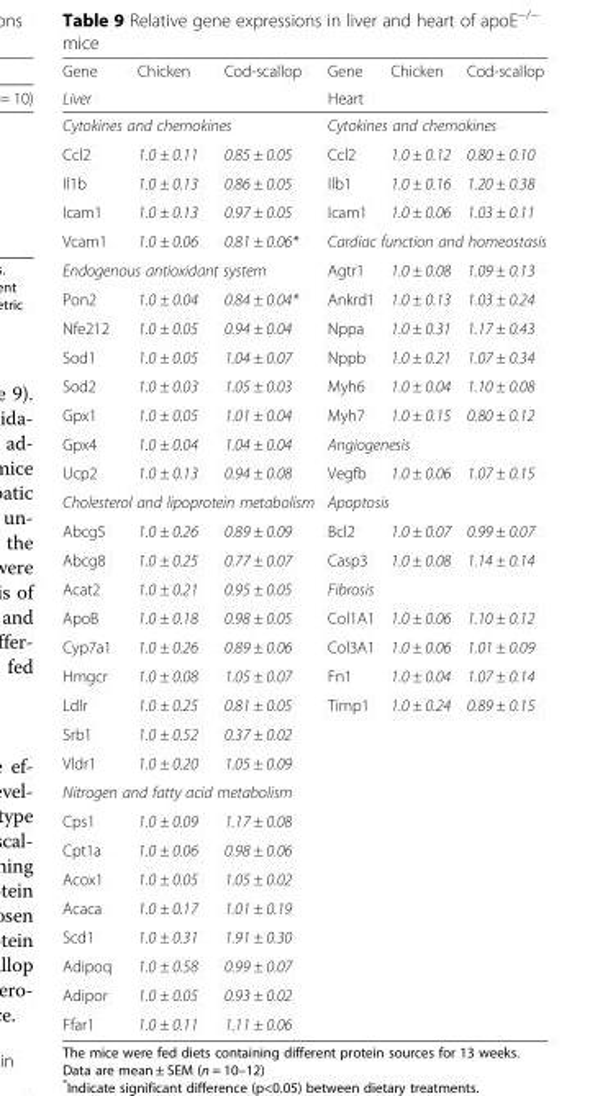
<table><thead><tr><td>Gene</td><td>Chicken</td><td>Cod-scallop</td><td>Gene</td><td>Chicken</td><td>Cod-scallop</td></tr><tr><td colspan="3">Liver</td><td colspan="3">Heart</td></tr></thead><tbody><tr><td colspan="3">Cytokines and chemokines</td><td colspan="3">Cytokines and chemokines</td></tr><tr><td>Ccl2</td><td>1.0 ± 0.11</td><td>0.85 ± 0.05</td><td>Ccl2</td><td>1.0 ± 0.12</td><td>0.80 ± 0.10</td></tr><tr><td>Il1b</td><td>1.0 ± 0.13</td><td>0.86 ± 0.05</td><td>Ilb1</td><td>1.0 ± 0.16</td><td>1.20 ± 0.38</td></tr><tr><td>Icam1</td><td>1.0 ± 0.13</td><td>0.97 ± 0.05</td><td>Icam1</td><td>1.0 ± 0.06</td><td>1.03 ± 0.11</td></tr><tr><td>Vcam1</td><td>1.0 ± 0.06</td><td>0.81 ± 0.06*</td><td colspan="3">Cardiac function and homeostasis</td></tr><tr><td colspan="3">Endogenous antioxidant system</td><td>Agtr1</td><td>1.0 ± 0.08</td><td>1.09 ± 0.13</td></tr><tr><td>Pon2</td><td>1.0 ± 0.04</td><td>0.84 ± 0.04*</td><td>Ankrd1</td><td>1.0 ± 0.13</td><td>1.03 ± 0.24</td></tr><tr><td>Nfe212</td><td>1.0 ± 0.05</td><td>0.94 ± 0.04</td><td>Nppa</td><td>1.0 ± 0.31</td><td>1.17 ± 0.43</td></tr><tr><td>Sod1</td><td>1.0 ± 0.05</td><td>1.04 ± 0.07</td><td>Nppb</td><td>1.0 ± 0.21</td><td>1.07 ± 0.34</td></tr><tr><td>Sod2</td><td>1.0 ± 0.03</td><td>1.05 ± 0.03</td><td>Myh6</td><td>1.0 ± 0.04</td><td>1.10 ± 0.08</td></tr><tr><td>Gpx1</td><td>1.0 ± 0.05</td><td>1.01 ± 0.04</td><td>Myh7</td><td>1.0 ± 0.15</td><td>0.80 ± 0.12</td></tr><tr><td>Gpx4</td><td>1.0 ± 0.04</td><td>1.04 ± 0.04</td><td colspan="3">Angiogenesis</td></tr><tr><td>Ucp2</td><td>1.0 ± 0.13</td><td>0.94 ± 0.08</td><td>Vegfb</td><td>1.0 ± 0.06</td><td>1.07 ± 0.15</td></tr><tr><td colspan="3">Cholesterol and lipoprotein metabolism</td><td colspan="3">Apoptosis</td></tr><tr><td>Abcg5</td><td>1.0 ± 0.26</td><td>0.89 ± 0.09</td><td>Bcl2</td><td>1.0 ± 0.07</td><td>0.99 ± 0.07</td></tr><tr><td>Abcg8</td><td>1.0 ± 0.25</td><td>0.77 ± 0.07</td><td>Casp3</td><td>1.0 ± 0.08</td><td>1.14 ± 0.14</td></tr><tr><td>Acat2</td><td>1.0 ± 0.21</td><td>0.95 ± 0.05</td><td colspan="3">Fibrosis</td></tr><tr><td>ApoB</td><td>1.0 ± 0.18</td><td>0.98 ± 0.05</td><td>Col1A1</td><td>1.0 ± 0.06</td><td>1.10 ± 0.12</td></tr><tr><td>Cyp7a1</td><td>1.0 ± 0.26</td><td>0.89 ± 0.06</td><td>Col3A1</td><td>1.0 ± 0.06</td><td>1.01 ± 0.09</td></tr><tr><td>Hmgcr</td><td>1.0 ± 0.08</td><td>1.05 ± 0.07</td><td>Fn1</td><td>1.0 ± 0.04</td><td>1.07 ± 0.14</td></tr><tr><td>Ldlr</td><td>1.0 ± 0.25</td><td>0.81 ± 0.05</td><td>Timp1</td><td>1.0 ± 0.24</td><td>0.89 ± 0.15</td></tr><tr><td>Srb1</td><td>1.0 ± 0.52</td><td>0.37 ± 0.02</td><td></td><td></td><td></td></tr><tr><td>Vldr1</td><td>1.0 ± 0.20</td><td>1.05 ± 0.09</td><td></td><td></td><td></td></tr><tr><td colspan="6">Nitrogen and fatty acid metabolism</td></tr><tr><td>Cps1</td><td>1.0 ± 0.09</td><td>1.17 ± 0.08</td><td></td><td></td><td></td></tr><tr><td>Cpt1a</td><td>1.0 ± 0.06</td><td>0.98 ± 0.06</td><td></td><td></td><td></td></tr><tr><td>Acox1</td><td>1.0 ± 0.05</td><td>1.05 ± 0.02</td><td></td><td></td><td></td></tr><tr><td>Acaca</td><td>1.0 ± 0.17</td><td>1.01 ± 0.19</td><td></td><td></td><td></td></tr><tr><td>Scd1</td><td>1.0 ± 0.31</td><td>1.91 ± 0.30</td><td></td><td></td><td></td></tr><tr><td>Adipoq</td><td>1.0 ± 0.58</td><td>0.99 ± 0.07</td><td></td><td></td><td></td></tr><tr><td>Adipor</td><td>1.0 ± 0.05</td><td>0.93 ± 0.02</td><td></td><td></td><td></td></tr><tr><td>Ffar1</td><td>1.0 ± 0.11</td><td>1.11 ± 0.06</td><td></td><td></td><td></td></tr></tbody></table>